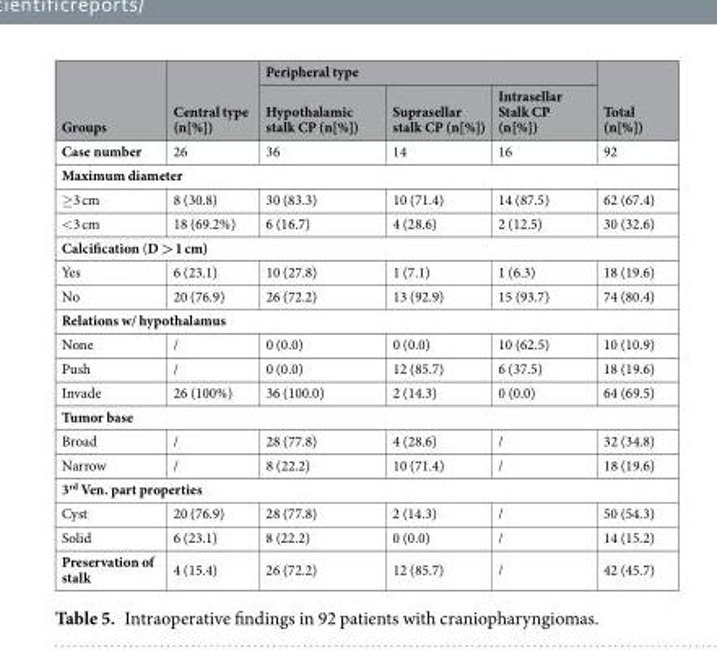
<table><thead><tr><td rowspan="2">Groups</td><td rowspan="2">Central type (n[%])</td><td colspan="3">Peripheral type</td><td rowspan="2">Total (n[%])</td></tr><tr><td>Hypothalamic stalk CP (n[%])</td><td>Suprasellar stalk CP (n[%])</td><td>Intrasellar Stalk CP (n[%])</td></tr></thead><tbody><tr><td>Case number</td><td>26</td><td>36</td><td>14</td><td>16</td><td>92</td></tr><tr><td colspan="6">Maximum diameter</td></tr><tr><td>≥3 cm</td><td>8 (30.8)</td><td>30 (83.3)</td><td>10 (71.4)</td><td>14 (87.5)</td><td>62 (67.4)</td></tr><tr><td>&lt;3 cm</td><td>18 (69.2%)</td><td>6 (16.7)</td><td>4 (28.6)</td><td>2 (12.5)</td><td>30 (32.6)</td></tr><tr><td colspan="6">Calcification (D &gt; 1 cm)</td></tr><tr><td>Yes</td><td>6 (23.1)</td><td>10 (27.8)</td><td>1 (7.1)</td><td>1 (6.3)</td><td>18 (19.6)</td></tr><tr><td>No</td><td>20 (76.9)</td><td>26 (72.2)</td><td>13 (92.9)</td><td>15 (93.7)</td><td>74 (80.4)</td></tr><tr><td colspan="6">Relations w/ hypothalamus</td></tr><tr><td>None</td><td>/</td><td>0 (0.0)</td><td>0 (0.0)</td><td>10 (62.5)</td><td>10 (10.9)</td></tr><tr><td>Push</td><td>/</td><td>0 (0.0)</td><td>12 (85.7)</td><td>6 (37.5)</td><td>18 (19.6)</td></tr><tr><td>Invade</td><td>26 (100%)</td><td>36 (100.0)</td><td>2 (14.3)</td><td>0 (0.0)</td><td>64 (69.5)</td></tr><tr><td colspan="6">Tumor base</td></tr><tr><td>Broad</td><td>/</td><td>28 (77.8)</td><td>4 (28.6)</td><td>/</td><td>32 (34.8)</td></tr><tr><td>Narrow</td><td>/</td><td>8 (22.2)</td><td>10 (71.4)</td><td>/</td><td>18 (19.6)</td></tr><tr><td colspan="6">3<sup>rd</sup> Ven. part properties</td></tr><tr><td>Cyst</td><td>20 (76.9)</td><td>28 (77.8)</td><td>2 (14.3)</td><td>/</td><td>50 (54.3)</td></tr><tr><td>Solid</td><td>6 (23.1)</td><td>8 (22.2)</td><td>0 (0.0)</td><td>/</td><td>14 (15.2)</td></tr><tr><td>Preservation of stalk</td><td>4 (15.4)</td><td>26 (72.2)</td><td>12 (85.7)</td><td>/</td><td>42 (45.7)</td></tr></tbody></table>